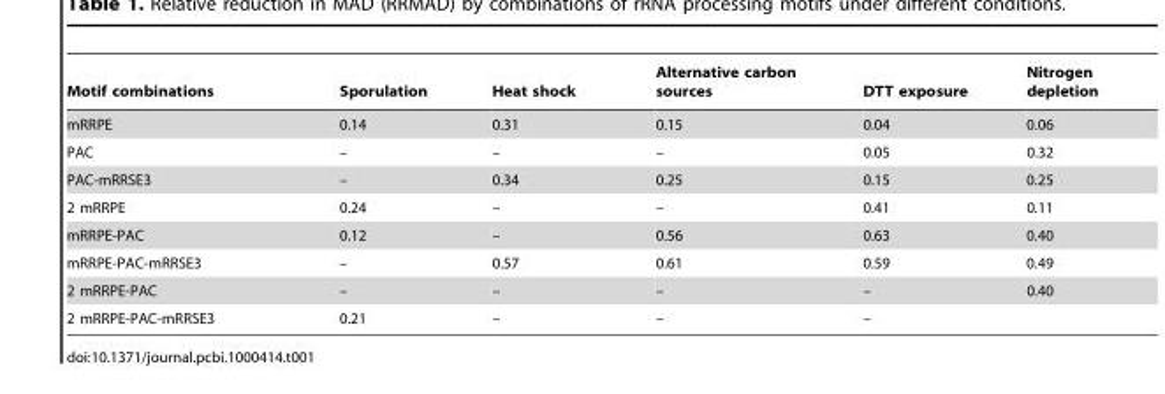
<table><thead><tr><td>Motif combinations</td><td>Sporulation</td><td>Heat shock</td><td>Alternative carbon sources</td><td>DTT exposure</td><td>Nitrogen depletion</td></tr></thead><tbody><tr><td>mRRPE</td><td>0.14</td><td>0.31</td><td>0.15</td><td>0.04</td><td>0.06</td></tr><tr><td>PAC</td><td>–</td><td>–</td><td>–</td><td>0.05</td><td>0.32</td></tr><tr><td>PAC-mRRSE3</td><td>–</td><td>0.34</td><td>0.25</td><td>0.15</td><td>0.25</td></tr><tr><td>2 mRRPE</td><td>0.24</td><td>–</td><td>–</td><td>0.41</td><td>0.11</td></tr><tr><td>mRRPE-PAC</td><td>0.12</td><td>–</td><td>0.56</td><td>0.63</td><td>0.40</td></tr><tr><td>mRRPE-PAC-mRRSE3</td><td>–</td><td>0.57</td><td>0.61</td><td>0.59</td><td>0.49</td></tr><tr><td>2 mRRPE-PAC</td><td>–</td><td>–</td><td>–</td><td>–</td><td>0.40</td></tr><tr><td>2 mRRPE-PAC-mRRSE3</td><td>0.21</td><td>–</td><td>–</td><td>–</td><td></td></tr></tbody></table>